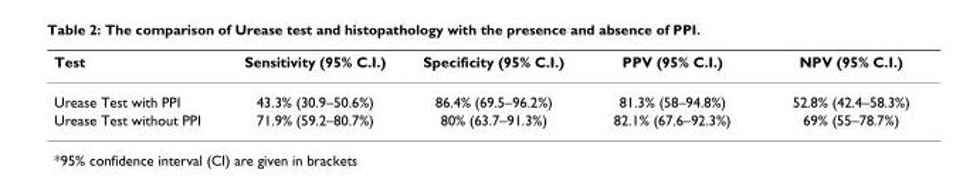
<table><thead><tr><td>Test</td><td>Sensitivity (95% C.I.)</td><td>Specificity (95% C.I.)</td><td>PPV (95% C.I.)</td><td>NPV (95% C.I.)</td></tr></thead><tbody><tr><td>Urease Test with PPI</td><td>43.3% (30.9–50.6%)</td><td>86.4% (69.5–96.2%)</td><td>81.3% (58–94.8%)</td><td>52.8% (42.4–58.3%)</td></tr><tr><td>Urease Test without PPI</td><td>71.9% (59.2–80.7%)</td><td>80% (63.7–91.3%)</td><td>82.1% (67.6–92.3%)</td><td>69% (55–78.7%)</td></tr></tbody></table>